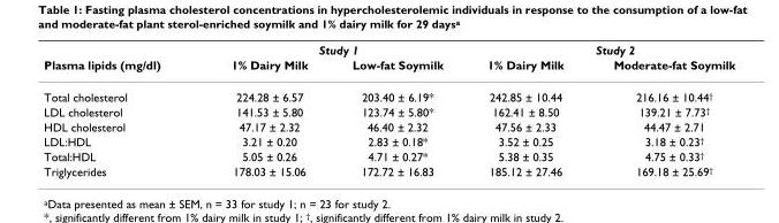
<table><thead><tr><td rowspan="2">Plasma lipids (mg/dl)</td><td colspan="2">Study 1</td><td colspan="2">Study 2</td></tr><tr><td>1% Dairy Milk</td><td>Low-fat Soymilk</td><td>1% Dairy Milk</td><td>Moderate-fat Soymilk</td></tr></thead><tbody><tr><td>Total cholesterol</td><td>224.28 ± 6.57</td><td>203.40 ± 6.19*</td><td>242.85 ± 10.44</td><td>216.16 ± 10.44<sup>†</sup></td></tr><tr><td>LDL cholesterol</td><td>141.53 ± 5.80</td><td>123.74 ± 5.80*</td><td>162.41 ± 8.50</td><td>139.21 ± 7.73<sup>†</sup></td></tr><tr><td>HDL cholesterol</td><td>47.17 ± 2.32</td><td>46.40 ± 2.32</td><td>47.56 ± 2.33</td><td>44.47 ± 2.71</td></tr><tr><td>LDL:HDL</td><td>3.21 ± 0.20</td><td>2.83 ± 0.18*</td><td>3.52 ± 0.25</td><td>3.18 ± 0.23<sup>†</sup></td></tr><tr><td>Total:HDL</td><td>5.05 ± 0.26</td><td>4.71 ± 0.27*</td><td>5.38 ± 0.35</td><td>4.75 ± 0.33<sup>†</sup></td></tr><tr><td>Triglycerides</td><td>178.03 ± 15.06</td><td>172.72 ± 16.83</td><td>185.12 ± 27.46</td><td>169.18 ± 25.69<sup>†</sup></td></tr></tbody></table>